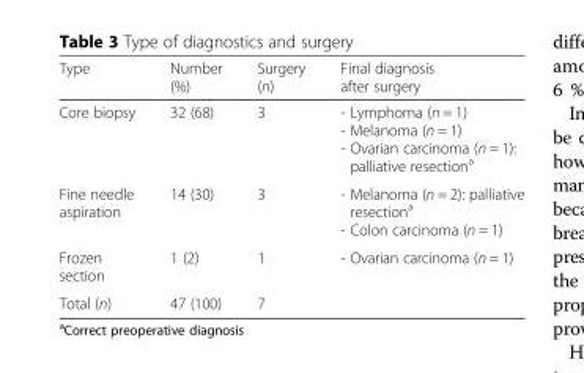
<table><thead><tr><td>Type</td><td>Number (%)</td><td>Surgery (n)</td><td>Final diagnosis after surgery</td></tr></thead><tbody><tr><td>Core biopsy</td><td>32 (68)</td><td>3</td><td>- Lymphoma (n = 1) - Melanoma (n = 1) - Ovarian carcinoma (n = 1): palliative resection<sup>a</sup></td></tr><tr><td>Fine needle aspiration</td><td>14 (30)</td><td>3</td><td>- Melanoma (n = 2): palliative resection<sup>a</sup> - Colon carcinoma (n = 1)</td></tr><tr><td>Frozen section</td><td>1 (2)</td><td>1</td><td>- Ovarian carcinoma (n = 1)</td></tr><tr><td>Total (n)</td><td>47 (100)</td><td>7</td><td></td></tr></tbody></table>